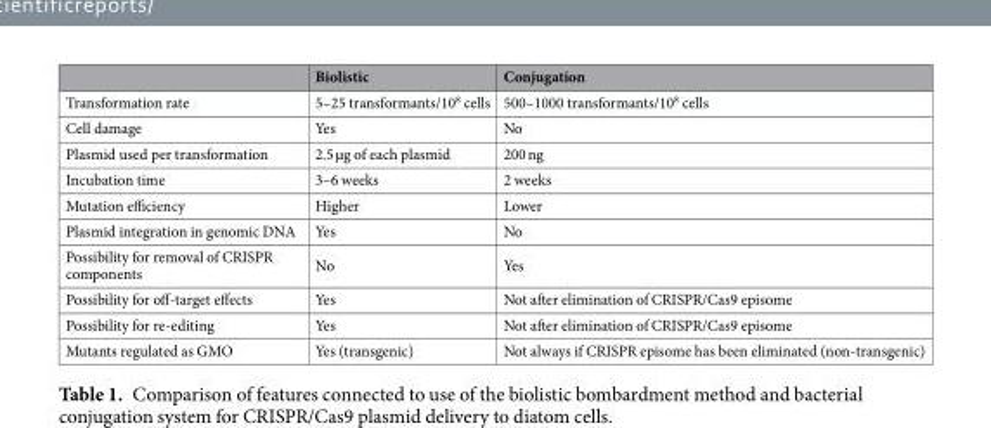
<table><thead><tr><td></td><td>Biolistic</td><td>Conjugation</td></tr></thead><tbody><tr><td>Transformation rate</td><td>5–25 transformants/10<sup>8</sup> cells</td><td>500–1000 transformants/10<sup>8</sup> cells</td></tr><tr><td>Cell damage</td><td>Yes</td><td>No</td></tr><tr><td>Plasmid used per transformation</td><td>2.5 µg of each plasmid</td><td>200 ng</td></tr><tr><td>Incubation time</td><td>3–6 weeks</td><td>2 weeks</td></tr><tr><td>Mutation efficiency</td><td>Higher</td><td>Lower</td></tr><tr><td>Plasmid integration in genomic DNA</td><td>Yes</td><td>No</td></tr><tr><td>Possibility for removal of CRISPR components</td><td>No</td><td>Yes</td></tr><tr><td>Possibility for off-target effects</td><td>Yes</td><td>Not after elimination of CRISPR/Cas9 episome</td></tr><tr><td>Possibility for re-editing</td><td>Yes</td><td>Not after elimination of CRISPR/Cas9 episome</td></tr><tr><td>Mutants regulated as GMO</td><td>Yes (transgenic)</td><td>Not always if CRISPR episome has been eliminated (non-transgenic)</td></tr></tbody></table>